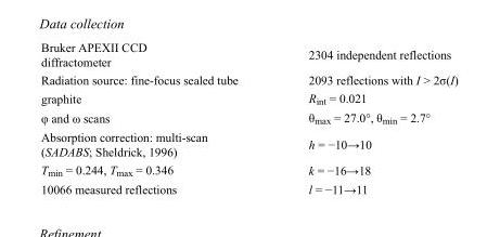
<table><tbody><tr><td>Bruker APEXII CCD diffractometer</td><td>2304 independent reflections</td></tr><tr><td>Radiation source: fine-focus sealed tube</td><td>2093 reflections with I &gt; 2σ(I)</td></tr><tr><td>graphite</td><td>R<sub>int</sub> = 0.021</td></tr><tr><td>φ and ω scans</td><td>θ<sub>max</sub> = 27.0°, θ<sub>min</sub> = 2.7°</td></tr><tr><td>Absorption correction: multi-scan (SADABS; Sheldrick, 1996)</td><td>h = −10→10</td></tr><tr><td>T<sub>min</sub> = 0.244, T<sub>max</sub> = 0.346</td><td>k = −16→18</td></tr><tr><td>10066 measured reflections</td><td>l = −11→11</td></tr></tbody></table>